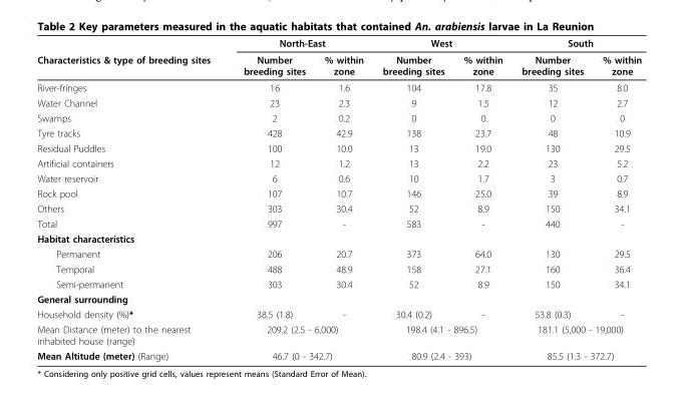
<table><thead><tr><td rowspan="2">Characteristics &amp; type of breeding sites</td><td colspan="2">North-East</td><td colspan="2">West</td><td colspan="2">South</td></tr><tr><td>Number breeding sites</td><td>% within zone</td><td>Number breeding sites</td><td>% within zone</td><td>Number breeding sites</td><td>% within zone</td></tr></thead><tbody><tr><td>River-fringes</td><td>16</td><td>1.6</td><td>104</td><td>17.8</td><td>35</td><td>8.0</td></tr><tr><td>Water Channel</td><td>23</td><td>2.3</td><td>9</td><td>1.5</td><td>12</td><td>2.7</td></tr><tr><td>Swamps</td><td>2</td><td>0.2</td><td>0</td><td>0</td><td>0</td><td>0</td></tr><tr><td>Tyre tracks</td><td>428</td><td>42.9</td><td>138</td><td>23.7</td><td>48</td><td>10.9</td></tr><tr><td>Residual Puddles</td><td>100</td><td>10.0</td><td>13</td><td>19.0</td><td>130</td><td>29.5</td></tr><tr><td>Artificial containers</td><td>12</td><td>1.2</td><td>13</td><td>2.2</td><td>23</td><td>5.2</td></tr><tr><td>Water reservoir</td><td>6</td><td>0.6</td><td>10</td><td>1.7</td><td>3</td><td>0.7</td></tr><tr><td>Rock pool</td><td>107</td><td>10.7</td><td>146</td><td>25.0</td><td>39</td><td>8.9</td></tr><tr><td>Others</td><td>303</td><td>30.4</td><td>52</td><td>8.9</td><td>150</td><td>34.1</td></tr><tr><td>Total</td><td>997</td><td>-</td><td>583</td><td>-</td><td>440</td><td>-</td></tr><tr><td colspan="7">Habitat characteristics</td></tr><tr><td>Permanent</td><td>206</td><td>20.7</td><td>373</td><td>64.0</td><td>130</td><td>29.5</td></tr><tr><td>Temporal</td><td>488</td><td>48.9</td><td>158</td><td>27.1</td><td>160</td><td>36.4</td></tr><tr><td>Semi-permanent</td><td>303</td><td>30.4</td><td>52</td><td>8.9</td><td>150</td><td>34.1</td></tr><tr><td colspan="7">General surrounding</td></tr><tr><td>Household density (%)*</td><td>38.5 (1.8)</td><td>-</td><td>30.4 (0.2)</td><td>-</td><td>53.8 (0.3)</td><td>-</td></tr><tr><td>Mean Distance (meter) to the nearest inhabited house (range)</td><td colspan="2">209.2 (2.5 - 6,000)</td><td colspan="2">198.4 (4.1 - 896.5)</td><td colspan="2">181.1 (5,000 - 19,000)</td></tr><tr><td>Mean Altitude (meter) (Range)</td><td colspan="2">46.7 (0 - 342.7)</td><td colspan="2">80.9 (2.4 - 393)</td><td colspan="2">85.5 (1.3 - 372.7)</td></tr></tbody></table>